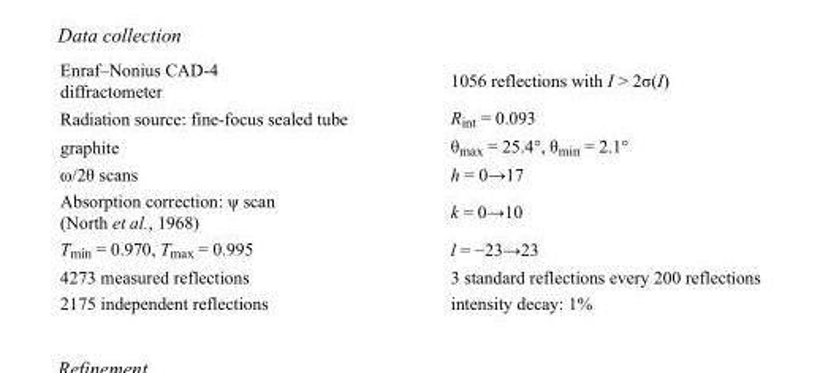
<table><tbody><tr><td>Enraf–Nonius CAD-4 diffractometer</td><td>1056 reflections with I &gt; 2σ(I)</td></tr><tr><td>Radiation source: fine-focus sealed tube</td><td>R<sub>int</sub> = 0.093</td></tr><tr><td>graphite</td><td>θ<sub>max</sub> = 25.4°, θ<sub>min</sub> = 2.1°</td></tr><tr><td>ω/2θ scans</td><td>h = 0→17</td></tr><tr><td>Absorption correction: ψ scan (North et al., 1968)</td><td>k = 0→10</td></tr><tr><td>T<sub>min</sub> = 0.970, T<sub>max</sub> = 0.995</td><td>l = −23→23</td></tr><tr><td>4273 measured reflections</td><td>3 standard reflections every 200 reflections</td></tr><tr><td>2175 independent reflections</td><td>intensity decay: 1%</td></tr></tbody></table>